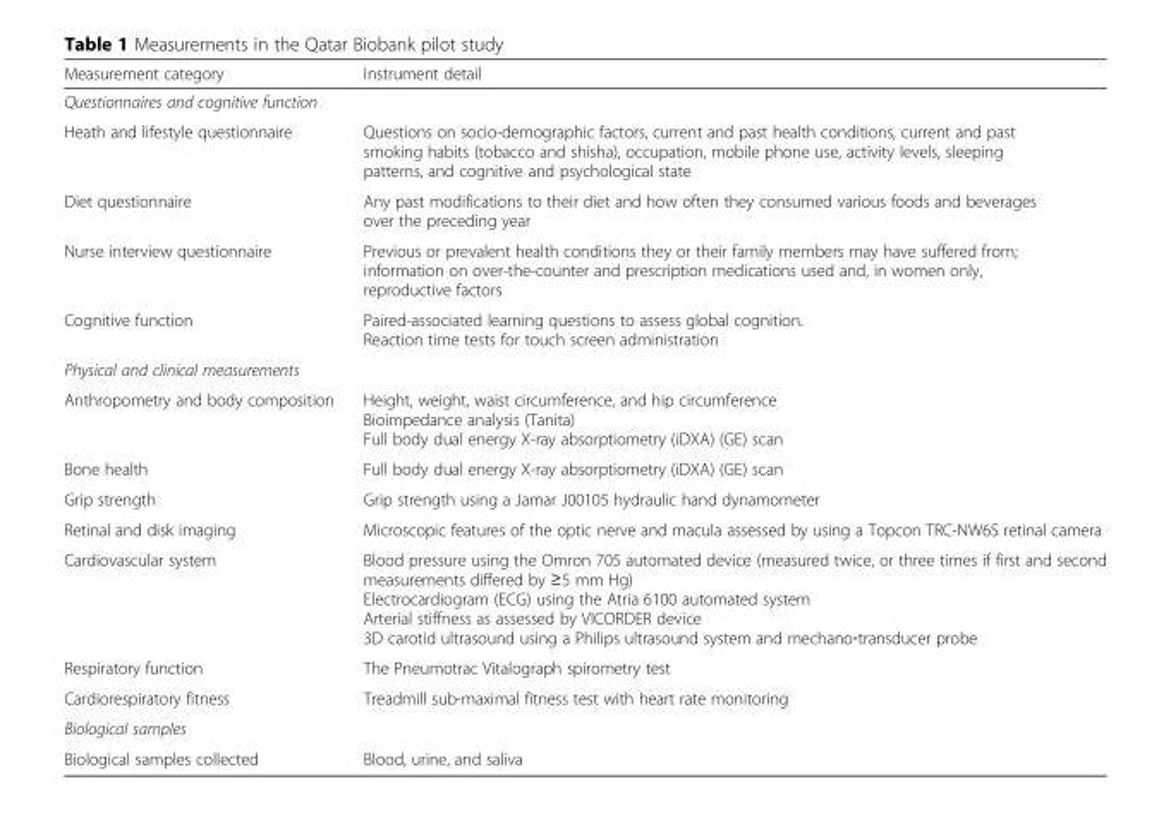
<table><thead><tr><td>Measurement category</td><td>Instrument detail</td></tr></thead><tbody><tr><td colspan="2">Questionnaires and cognitive function</td></tr><tr><td>Heath and lifestyle questionnaire</td><td>Questions on socio-demographic factors, current and past health conditions, current and past smoking habits (tobacco and shisha), occupation, mobile phone use, activity levels, sleeping patterns, and cognitive and psychological state</td></tr><tr><td>Diet questionnaire</td><td>Any past modifications to their diet and how often they consumed various foods and beverages over the preceding year</td></tr><tr><td>Nurse interview questionnaire</td><td>Previous or prevalent health conditions they or their family members may have suffered from; information on over-the-counter and prescription medications used and, in women only, reproductive factors</td></tr><tr><td>Cognitive function</td><td>Paired-associated learning questions to assess global cognition. Reaction time tests for touch screen administration</td></tr><tr><td colspan="2">Physical and clinical measurements</td></tr><tr><td>Anthropometry and body composition</td><td>Height, weight, waist circumference, and hip circumference Bioimpedance analysis (Tanita) Full body dual energy X-ray absorptiometry (iDXA) (GE) scan</td></tr><tr><td>Bone health</td><td>Full body dual energy X-ray absorptiometry (iDXA) (GE) scan</td></tr><tr><td>Grip strength</td><td>Grip strength using a Jamar J00105 hydraulic hand dynamometer</td></tr><tr><td>Retinal and disk imaging</td><td>Microscopic features of the optic nerve and macula assessed by using a Topcon TRC-NW6S retinal camera</td></tr><tr><td>Cardiovascular system</td><td>Blood pressure using the Omron 705 automated device (measured twice, or three times if first and second measurements differed by ≥5 mm Hg) Electrocardiogram (ECG) using the Atria 6100 automated system Arterial stiffness as assessed by VICORDER device 3D carotid ultrasound using a Philips ultrasound system and mechano‐transducer probe</td></tr><tr><td>Respiratory function</td><td>The Pneumotrac Vitalograph spirometry test</td></tr><tr><td>Cardiorespiratory fitness</td><td>Treadmill sub-maximal fitness test with heart rate monitoring</td></tr><tr><td colspan="2">Biological samples</td></tr><tr><td>Biological samples collected</td><td>Blood, urine, and saliva</td></tr></tbody></table>